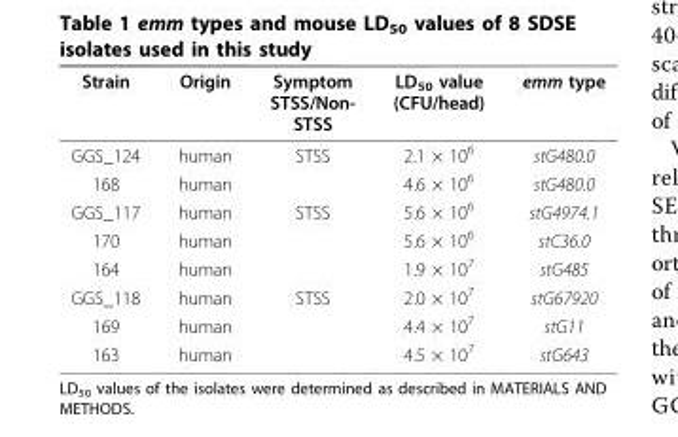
<table><thead><tr><td>Strain</td><td>Origin</td><td>Symptom STSS/Non- STSS</td><td>LD<sub>50</sub> value (CFU/head)</td><td>emm type</td></tr></thead><tbody><tr><td>GGS_124</td><td>human</td><td>STSS</td><td>2.1 × 10<sup>6</sup></td><td>stG480.0</td></tr><tr><td>168</td><td>human</td><td></td><td>4.6 × 10<sup>6</sup></td><td>stG480.0</td></tr><tr><td>GGS_117</td><td>human</td><td>STSS</td><td>5.6 × 10<sup>6</sup></td><td>stG4974.1</td></tr><tr><td>170</td><td>human</td><td></td><td>5.6 × 10<sup>6</sup></td><td>stC36.0</td></tr><tr><td>164</td><td>human</td><td></td><td>1.9 × 10<sup>7</sup></td><td>stG485</td></tr><tr><td>GGS_118</td><td>human</td><td>STSS</td><td>2.0 × 10<sup>7</sup></td><td>stG67920</td></tr><tr><td>169</td><td>human</td><td></td><td>4.4 × 10<sup>7</sup></td><td>stG11</td></tr><tr><td>163</td><td>human</td><td></td><td>4.5 × 10<sup>7</sup></td><td>stG643</td></tr></tbody></table>